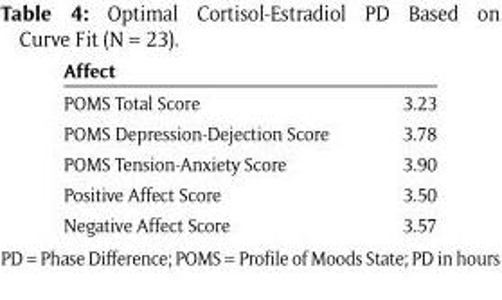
<table><thead><tr><td>Affect</td><td></td></tr></thead><tbody><tr><td>POMS Total Score</td><td>3.23</td></tr><tr><td>POMS Depression-Dejection Score</td><td>3.78</td></tr><tr><td>POMS Tension-Anxiety Score</td><td>3.90</td></tr><tr><td>Positive Affect Score</td><td>3.50</td></tr><tr><td>Negative Affect Score</td><td>3.57</td></tr></tbody></table>